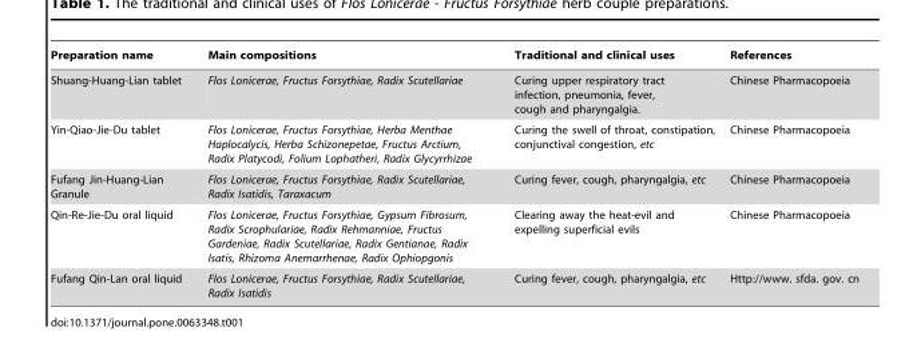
<table><thead><tr><td>Preparation name</td><td>Main compositions</td><td>Traditional and clinical uses</td><td>References</td></tr></thead><tbody><tr><td>Shuang-Huang-Lian tablet</td><td>Flos Lonicerae, Fructus Forsythiae, Radix Scutellariae</td><td>Curing upper respiratory tract infection, pneumonia, fever, cough and pharyngalgia.</td><td>Chinese Pharmacopoeia</td></tr><tr><td>Yin-Qiao-Jie-Du tablet</td><td>Flos Lonicerae, Fructus Forsythiae, Herba Menthae Haplocalycis, Herba Schizonepetae, Fructus Arctium, Radix Platycodi, Folium Lophatheri, Radix Glycyrrhizae</td><td>Curing the swell of throat, constipation, conjunctival congestion, etc</td><td>Chinese Pharmacopoeia</td></tr><tr><td>Fufang Jin-Huang-Lian Granule</td><td>Flos Lonicerae, Fructus Forsythiae, Radix Scutellariae, Radix Isatidis, Taraxacum</td><td>Curing fever, cough, pharyngalgia, etc</td><td>Chinese Pharmacopoeia</td></tr><tr><td>Qin-Re-Jie-Du oral liquid</td><td>Flos Lonicerae, Fructus Forsythiae, Gypsum Fibrosum, Radix Scrophulariae, Radix Rehmanniae, Fructus Gardeniae, Radix Scutellariae, Radix Gentianae, Radix Isatis, Rhizoma Anemarrhenae, Radix Ophiopgonis</td><td>Clearing away the heat-evil and expelling superficial evils</td><td>Chinese Pharmacopoeia</td></tr><tr><td>Fufang Qin-Lan oral liquid</td><td>Flos Lonicerae, Fructus Forsythiae, Radix Scutellariae, Radix Isatidis</td><td>Curing fever, cough, pharyngalgia, etc</td><td>Http://www. sfda. gov.</td></tr></tbody></table>